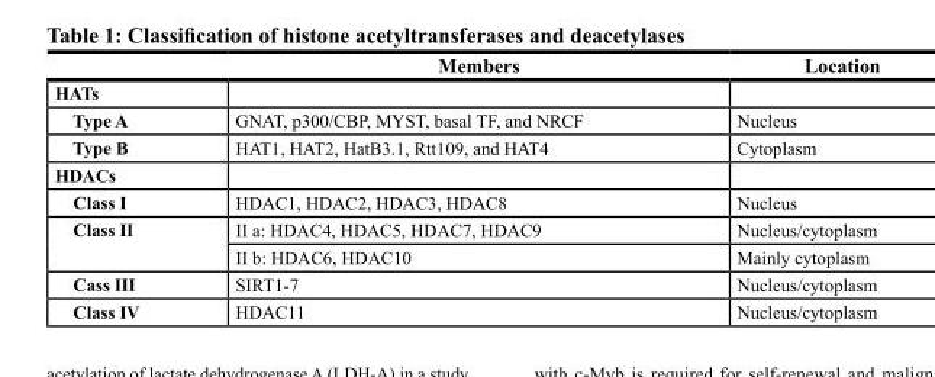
<table><thead><tr><td></td><td>Members</td><td>Location</td></tr></thead><tbody><tr><td colspan="3">HATs</td></tr><tr><td>Type A</td><td>GNAT, p300/CBP, MYST, basal TF, and NRCF</td><td>Nucleus</td></tr><tr><td>Type B</td><td>HAT1, HAT2, HatB3.1, Rtt109, and HAT4</td><td>Cytoplasm</td></tr><tr><td colspan="3">HDACs</td></tr><tr><td>Class I</td><td>HDAC1, HDAC2, HDAC3, HDAC8</td><td>Nucleus</td></tr><tr><td rowspan="2">Class II</td><td>II a: HDAC4, HDAC5, HDAC7, HDAC9</td><td>Nucleus/cytoplasm</td></tr><tr><td>II b: HDAC6, HDAC10</td><td>Mainly cytoplasm</td></tr><tr><td>Cass III</td><td>SIRT1-7</td><td>Nucleus/cytoplasm</td></tr><tr><td>Class IV</td><td>HDAC11</td><td>Nucleus/cytoplasm</td></tr></tbody></table>